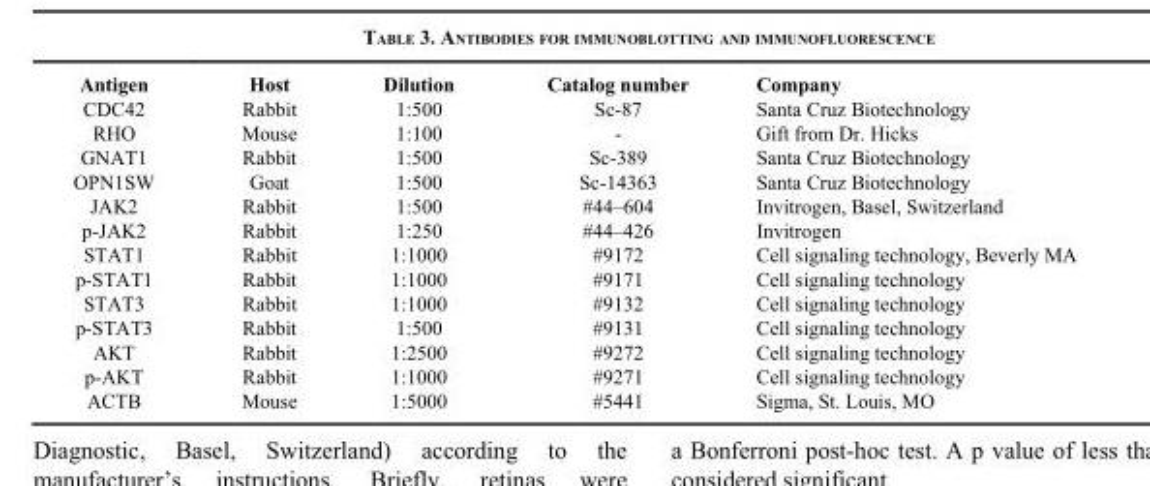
<table><thead><tr><td>Antigen</td><td>Host</td><td>Dilution</td><td>Catalog number</td><td>Company</td></tr></thead><tbody><tr><td>CDC42</td><td>Rabbit</td><td>1:500</td><td>Sc-87</td><td>Santa Cruz Biotechnology</td></tr><tr><td>RHO</td><td>Mouse</td><td>1:100</td><td>-</td><td>Gift from Dr. Hicks</td></tr><tr><td>GNAT1</td><td>Rabbit</td><td>1:500</td><td>Sc-389</td><td>Santa Cruz Biotechnology</td></tr><tr><td>OPN1SW</td><td>Goat</td><td>1:500</td><td>Sc-14363</td><td>Santa Cruz Biotechnology</td></tr><tr><td>JAK2</td><td>Rabbit</td><td>1:500</td><td>#44–604</td><td>Invitrogen, Basel, Switzerland</td></tr><tr><td>p-JAK2</td><td>Rabbit</td><td>1:250</td><td>#44–426</td><td>Invitrogen</td></tr><tr><td>STAT1</td><td>Rabbit</td><td>1:1000</td><td>#9172</td><td>Cell signaling technology, Beverly MA</td></tr><tr><td>p-STAT1</td><td>Rabbit</td><td>1:1000</td><td>#9171</td><td>Cell signaling technology</td></tr><tr><td>STAT3</td><td>Rabbit</td><td>1:1000</td><td>#9132</td><td>Cell signaling technology</td></tr><tr><td>p-STAT3</td><td>Rabbit</td><td>1:500</td><td>#9131</td><td>Cell signaling technology</td></tr><tr><td>AKT</td><td>Rabbit</td><td>1:2500</td><td>#9272</td><td>Cell signaling technology</td></tr><tr><td>p-AKT</td><td>Rabbit</td><td>1:1000</td><td>#9271</td><td>Cell signaling technology</td></tr><tr><td>ACTB</td><td>Mouse</td><td>1:5000</td><td>#5441</td><td>Sigma, St. Louis, MO</td></tr></tbody></table>